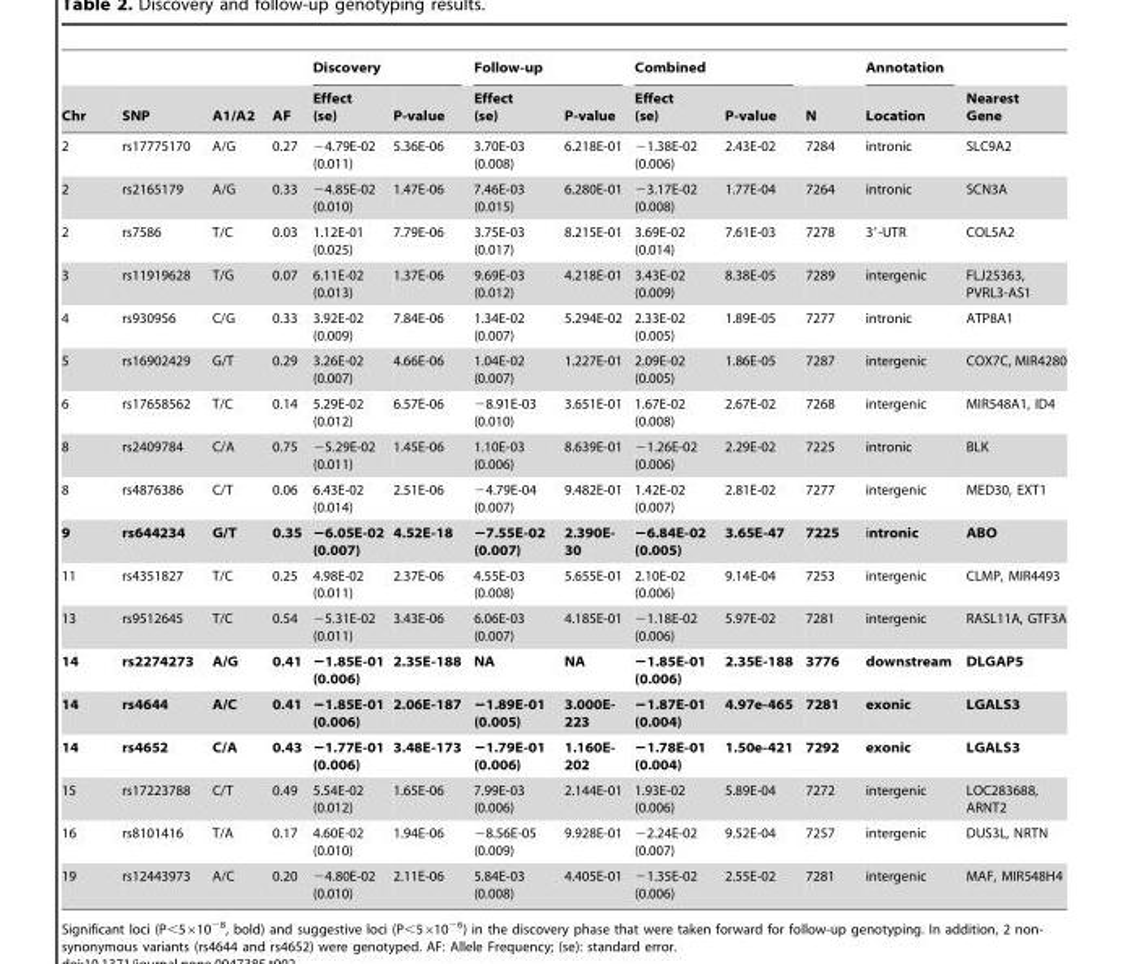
<table><thead><tr><td rowspan="2">Chr</td><td rowspan="2">SNP</td><td rowspan="2">A1/A2</td><td rowspan="2">AF</td><td colspan="2">Discovery</td><td colspan="2">Follow-up</td><td colspan="2">Combined</td><td rowspan="2">N</td><td rowspan="2">Annotation Location</td><td rowspan="2">Nearest Gene</td></tr><tr><td>Effect (se)</td><td>P-value</td><td>Effect (se)</td><td>P-value</td><td>Effect (se)</td><td>P-value</td></tr></thead><tbody><tr><td>2</td><td>rs17775170</td><td>A/G</td><td>0.27</td><td>−4.79E-02 (0.011)</td><td>5.36E-06</td><td>3.70E-03 (0.008)</td><td>6.218E-01</td><td>−1.38E-02 (0.006)</td><td>2.43E-02</td><td>7284</td><td>intronic</td><td>SLC9A2</td></tr><tr><td>2</td><td>rs2165179</td><td>A/G</td><td>0.33</td><td>−4.85E-02 (0.010)</td><td>1.47E-06</td><td>7.46E-03 (0.015)</td><td>6.280E-01</td><td>−3.17E-02 (0.008)</td><td>1.77E-04</td><td>7264</td><td>intronic</td><td>SCN3A</td></tr><tr><td>2</td><td>rs7586</td><td>T/C</td><td>0.03</td><td>1.12E-01 (0.025)</td><td>7.79E-06</td><td>3.75E-03 (0.017)</td><td>8.215E-01</td><td>3.69E-02 (0.014)</td><td>7.61E-03</td><td>7278</td><td>3′-UTR</td><td>COL5A2</td></tr><tr><td>3</td><td>rs11919628</td><td>T/G</td><td>0.07</td><td>6.11E-02 (0.013)</td><td>1.37E-06</td><td>9.69E-03 (0.012)</td><td>4.218E-01</td><td>3.43E-02 (0.009)</td><td>8.38E-05</td><td>7289</td><td>intergenic</td><td>FLJ25363, PVRL3-AS1</td></tr><tr><td>4</td><td>rs930956</td><td>C/G</td><td>0.33</td><td>3.92E-02 (0.009)</td><td>7.84E-06</td><td>1.34E-02 (0.007)</td><td>5.294E-02</td><td>2.33E-02 (0.005)</td><td>1.89E-05</td><td>7277</td><td>intronic</td><td>ATP8A1</td></tr><tr><td>5</td><td>rs16902429</td><td>G/T</td><td>0.29</td><td>3.26E-02 (0.007)</td><td>4.66E-06</td><td>1.04E-02 (0.007)</td><td>1.227E-01</td><td>2.09E-02 (0.005)</td><td>1.86E-05</td><td>7287</td><td>intergenic</td><td>COX7C, MIR4280</td></tr><tr><td>6</td><td>rs17658562</td><td>T/C</td><td>0.14</td><td>5.29E-02 (0.012)</td><td>6.57E-06</td><td>−8.91E-03 (0.010)</td><td>3.651E-01</td><td>1.67E-02 (0.008)</td><td>2.67E-02</td><td>7268</td><td>intergenic</td><td>MIR548A1, ID4</td></tr><tr><td>8</td><td>rs2409784</td><td>C/A</td><td>0.75</td><td>−5.29E-02 (0.011)</td><td>1.45E-06</td><td>1.10E-03 (0.006)</td><td>8.639E-01</td><td>−1.26E-02 (0.006)</td><td>2.29E-02</td><td>7225</td><td>intronic</td><td>BLK</td></tr><tr><td>8</td><td>rs4876386</td><td>C/T</td><td>0.06</td><td>6.43E-02 (0.014)</td><td>2.51E-06</td><td>−4.79E-04 (0.007)</td><td>9.482E-01</td><td>1.42E-02 (0.007)</td><td>2.81E-02</td><td>7277</td><td>intergenic</td><td>MED30, EXT1</td></tr><tr><td>9</td><td>rs644234</td><td>G/T</td><td>0.35</td><td>−6.05E-02 (0.007)</td><td>4.52E-18</td><td>−7.55E-02 (0.007)</td><td>2.390E- 30</td><td>−6.84E-02 (0.005)</td><td>3.65E-47</td><td>7225</td><td>intronic</td><td>ABO</td></tr><tr><td>11</td><td>rs4351827</td><td>T/C</td><td>0.25</td><td>4.98E-02 (0.011)</td><td>2.37E-06</td><td>4.55E-03 (0.008)</td><td>5.655E-01</td><td>2.10E-02 (0.006)</td><td>9.14E-04</td><td>7253</td><td>intergenic</td><td>CLMP, MIR4493</td></tr><tr><td>13</td><td>rs9512645</td><td>T/C</td><td>0.54</td><td>−5.31E-02 (0.011)</td><td>3.43E-06</td><td>6.06E-03 (0.007)</td><td>4.185E-01</td><td>−1.18E-02 (0.006)</td><td>5.97E-02</td><td>7281</td><td>intergenic</td><td>RASL11A, GTF3A</td></tr><tr><td>14</td><td>rs2274273</td><td>A/G</td><td>0.41</td><td>−1.85E-01 (0.006)</td><td>2.35E-188</td><td>NA</td><td>NA</td><td>−1.85E-01 (0.006)</td><td>2.35E-188</td><td>3776</td><td>downstream</td><td>DLGAP5</td></tr><tr><td>14</td><td>rs4644</td><td>A/C</td><td>0.41</td><td>−1.85E-01 (0.006)</td><td>2.06E-187</td><td>−1.89E-01 (0.005)</td><td>3.000E- 223</td><td>−1.87E-01 (0.004)</td><td>4.97e-465</td><td>7281</td><td>exonic</td><td>LGALS3</td></tr><tr><td>14</td><td>rs4652</td><td>C/A</td><td>0.43</td><td>−1.77E-01 (0.006)</td><td>3.48E-173</td><td>−1.79E-01 (0.006)</td><td>1.160E- 202</td><td>−1.78E-01 (0.004)</td><td>1.50e-421</td><td>7292</td><td>exonic</td><td>LGALS3</td></tr><tr><td>15</td><td>rs17223788</td><td>C/T</td><td>0.49</td><td>5.54E-02 (0.012)</td><td>1.65E-06</td><td>7.99E-03 (0.006)</td><td>2.144E-01</td><td>1.93E-02 (0.006)</td><td>5.89E-04</td><td>7272</td><td>intergenic</td><td>LOC283688, ARNT2</td></tr><tr><td>16</td><td>rs8101416</td><td>T/A</td><td>0.17</td><td>4.60E-02 (0.010)</td><td>1.94E-06</td><td>−8.56E-05 (0.009)</td><td>9.928E-01</td><td>−2.24E-02 (0.007)</td><td>9.52E-04</td><td>7257</td><td>intergenic</td><td>DUS3L, NRTN</td></tr><tr><td>19</td><td>rs12443973</td><td>A/C</td><td>0.20</td><td>−4.80E-02 (0.010)</td><td>2.11E-06</td><td>5.84E-03 (0.008)</td><td>4.405E-01</td><td>−1.35E-02 (0.006)</td><td>2.55E-02</td><td>7281</td><td>intergenic</td><td>MAF, MIR548H4</td></tr></tbody></table>